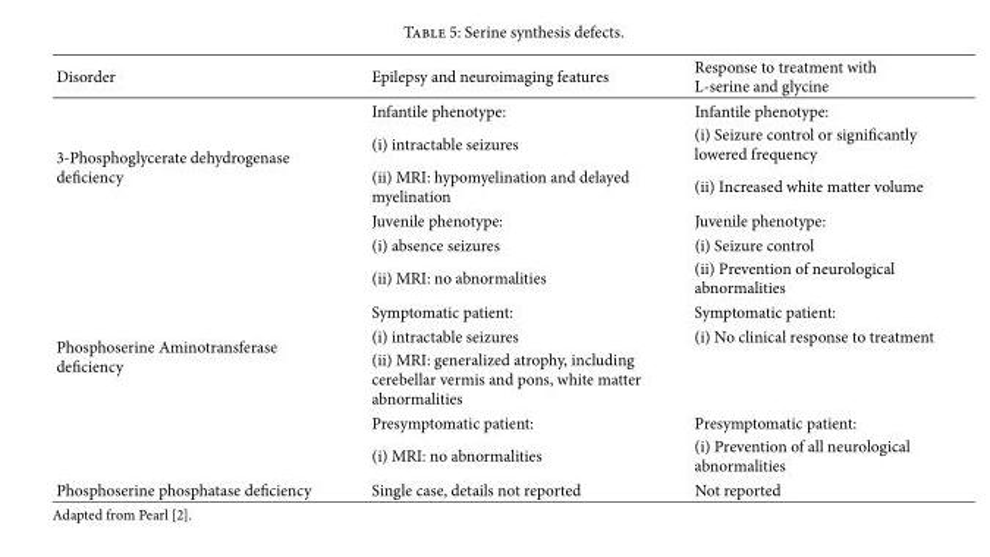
<table><thead><tr><td>Disorder</td><td>Epilepsy and neuroimaging features</td><td>Response to treatment with L-serine and glycine</td></tr></thead><tbody><tr><td rowspan="6">3-Phosphoglycerate dehydrogenase deficiency</td><td>Infantile phenotype:</td><td>Infantile phenotype:</td></tr><tr><td>(i) intractable seizures</td><td>(i) Seizure control or significantly lowered frequency</td></tr><tr><td>(ii) MRI: hypomyelination and delayed myelination</td><td>(ii) Increased white matter volume</td></tr><tr><td>Juvenile phenotype:</td><td>Juvenile phenotype:</td></tr><tr><td>(i) absence seizures</td><td>(i) Seizure control</td></tr><tr><td>(ii) MRI: no abnormalities</td><td>(ii) Prevention of neurological abnormalities</td></tr><tr><td rowspan="5">Phosphoserine Aminotransferase deficiency</td><td>Symptomatic patient:</td><td>Symptomatic patient:</td></tr><tr><td>(i) intractable seizures</td><td>(i) No clinical response to treatment</td></tr><tr><td>(ii) MRI: generalized atrophy, including cerebellar vermis and pons, white matter abnormalities</td><td></td></tr><tr><td>Presymptomatic patient:</td><td>Presymptomatic patient:</td></tr><tr><td>(i) MRI: no abnormalities</td><td>(i) Prevention of all neurological abnormalities</td></tr><tr><td>Phosphoserine phosphatase deficiency</td><td>Single case, details not reported</td><td>Not reported</td></tr></tbody></table>